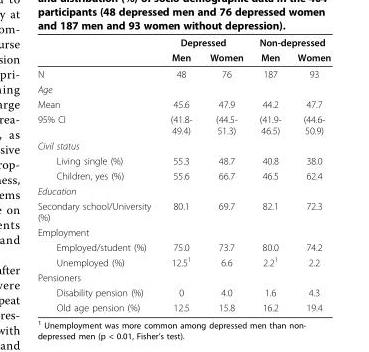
<table><thead><tr><td rowspan="2"></td><td colspan="2">Depressed</td><td colspan="2">Non-depressed</td></tr><tr><td>Men</td><td>Women</td><td>Men</td><td>Women</td></tr></thead><tbody><tr><td>N</td><td>48</td><td>76</td><td>187</td><td>93</td></tr><tr><td colspan="5">Age</td></tr><tr><td>Mean</td><td>45.6</td><td>47.9</td><td>44.2</td><td>47.7</td></tr><tr><td>95% CI</td><td>(41.8- 49.4)</td><td>(44.5- 51.3)</td><td>(41.9- 46.5)</td><td>(44.6- 50.9)</td></tr><tr><td colspan="5">Civil status</td></tr><tr><td>Living single (%)</td><td>55.3</td><td>48.7</td><td>40.8</td><td>38.0</td></tr><tr><td>Children, yes (%)</td><td>55.6</td><td>66.7</td><td>46.5</td><td>62.4</td></tr><tr><td colspan="5">Education</td></tr><tr><td>Secondary school/University (%)</td><td>80.1</td><td>69.7</td><td>82.1</td><td>72.3</td></tr><tr><td colspan="5">Employment</td></tr><tr><td>Employed/student (%)</td><td>75.0</td><td>73.7</td><td>80.0</td><td>74.2</td></tr><tr><td>Unemployed (%)</td><td>12.5<sup>1</sup></td><td>6.6</td><td>2.2<sup>1</sup></td><td>2.2</td></tr><tr><td colspan="5">Pensioners</td></tr><tr><td>Disability pension (%)</td><td>0</td><td>4.0</td><td>1.6</td><td>4.3</td></tr><tr><td>Old age pension (%)</td><td>12.5</td><td>15.8</td><td>16.2</td><td>19.4</td></tr></tbody></table>